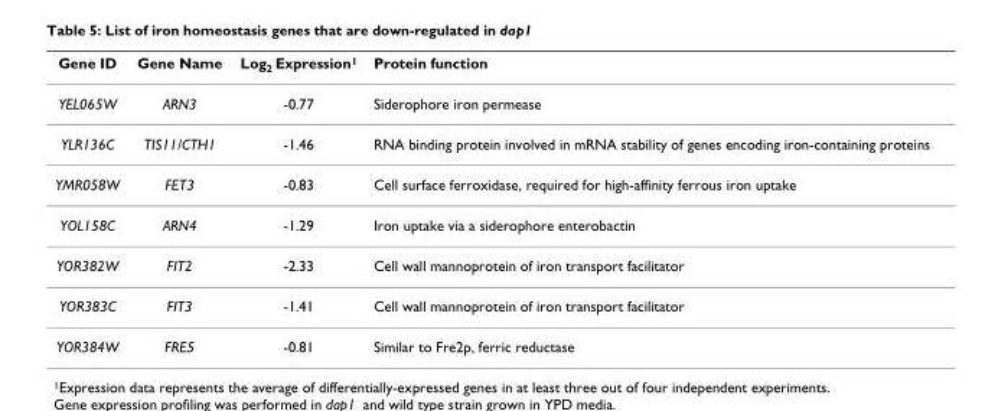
<table><thead><tr><td>Gene ID</td><td>Gene Name</td><td>Log<sub>2</sub> Expression<sup>1</sup></td><td>Protein function</td></tr></thead><tbody><tr><td>YEL065W</td><td>ARN3</td><td>-0.77</td><td>Siderophore iron permease</td></tr><tr><td>YLR136C</td><td>TIS11/CTH1</td><td>-1.46</td><td>RNA binding protein involved in mRNA stability of genes encoding iron-containing proteins</td></tr><tr><td>YMR058W</td><td>FET3</td><td>-0.83</td><td>Cell surface ferroxidase, required for high-affinity ferrous iron uptake</td></tr><tr><td>YOL158C</td><td>ARN4</td><td>-1.29</td><td>Iron uptake via a siderophore enterobactin</td></tr><tr><td>YOR382W</td><td>FIT2</td><td>-2.33</td><td>Cell wall mannoprotein of iron transport facilitator</td></tr><tr><td>YOR383C</td><td>FIT3</td><td>-1.41</td><td>Cell wall mannoprotein of iron transport facilitator</td></tr><tr><td>YOR384W</td><td>FRE5</td><td>-0.81</td><td>Similar to Fre2p, ferric reductase</td></tr></tbody></table>